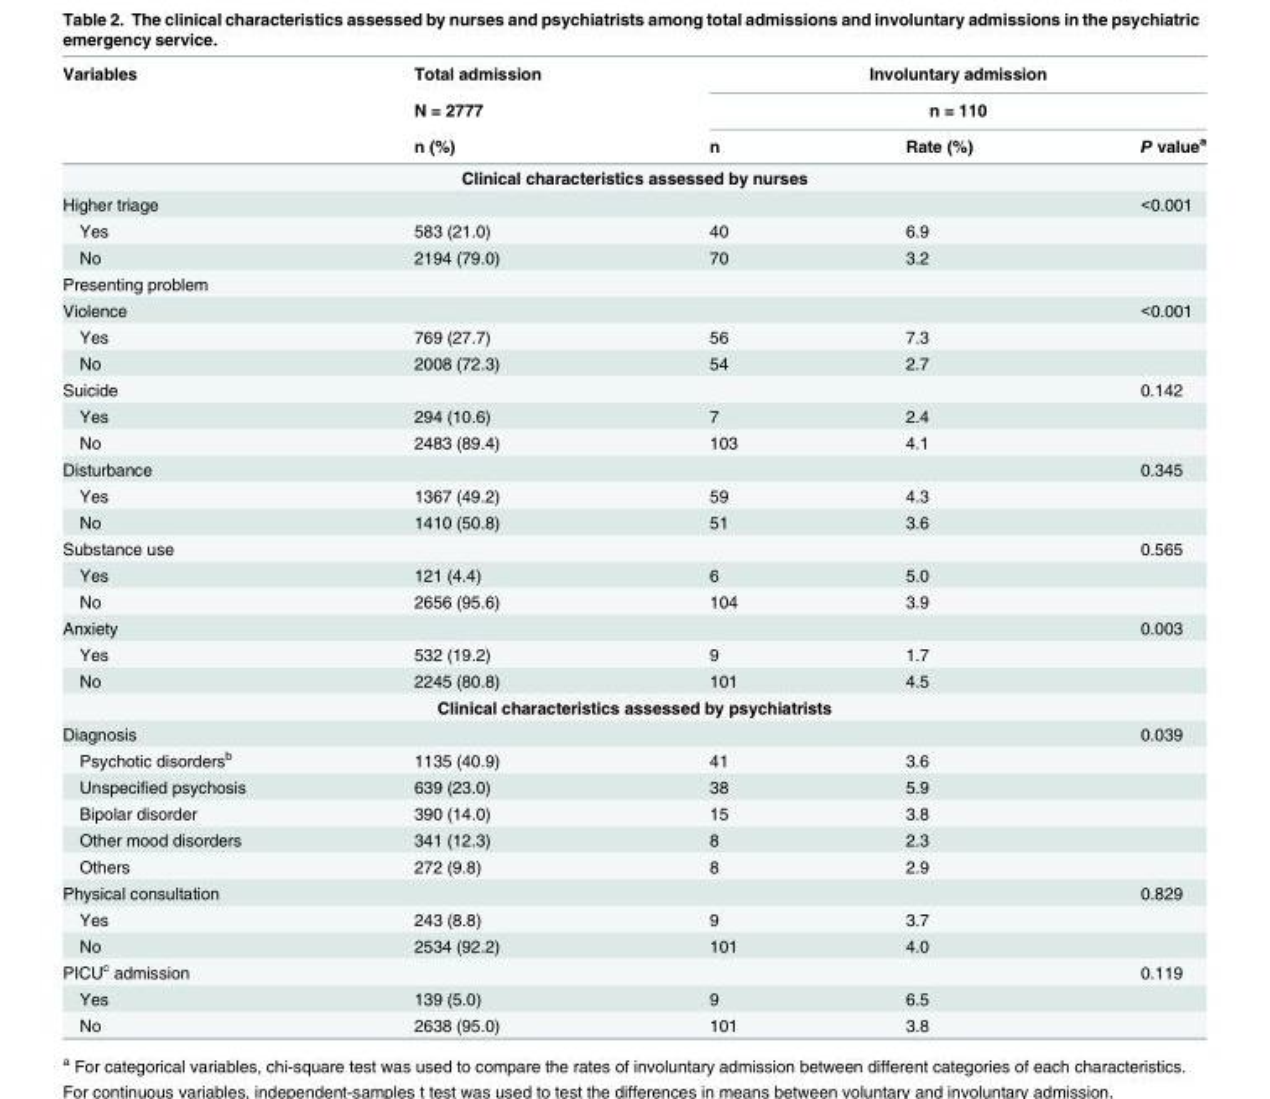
<table><thead><tr><td rowspan="3">Variables</td><td rowspan="3">Total admission N = 2777 n (%)</td><td rowspan="2" colspan="3">Involuntary admission n = 110</td></tr><tr></tr><tr><td>n</td><td>Rate (%)</td><td>P value<sup>a</sup></td></tr></thead><tbody><tr><td colspan="5">Clinical characteristics assessed by nurses</td></tr><tr><td>Higher triage</td><td></td><td></td><td></td><td>&lt;0.001</td></tr><tr><td>Yes</td><td>583 (21.0)</td><td>40</td><td>6.9</td><td></td></tr><tr><td>No</td><td>2194 (79.0)</td><td>70</td><td>3.2</td><td></td></tr><tr><td colspan="5">Presenting problem</td></tr><tr><td>Violence</td><td></td><td></td><td></td><td>&lt;0.001</td></tr><tr><td>Yes</td><td>769 (27.7)</td><td>56</td><td>7.3</td><td></td></tr><tr><td>No</td><td>2008 (72.3)</td><td>54</td><td>2.7</td><td></td></tr><tr><td>Suicide</td><td></td><td></td><td></td><td>0.142</td></tr><tr><td>Yes</td><td>294 (10.6)</td><td>7</td><td>2.4</td><td></td></tr><tr><td>No</td><td>2483 (89.4)</td><td>103</td><td>4.1</td><td></td></tr><tr><td>Disturbance</td><td></td><td></td><td></td><td>0.345</td></tr><tr><td>Yes</td><td>1367 (49.2)</td><td>59</td><td>4.3</td><td></td></tr><tr><td>No</td><td>1410 (50.8)</td><td>51</td><td>3.6</td><td></td></tr><tr><td>Substance use</td><td></td><td></td><td></td><td>0.565</td></tr><tr><td>Yes</td><td>121 (4.4)</td><td>6</td><td>5.0</td><td></td></tr><tr><td>No</td><td>2656 (95.6)</td><td>104</td><td>3.9</td><td></td></tr><tr><td>Anxiety</td><td></td><td></td><td></td><td>0.003</td></tr><tr><td>Yes</td><td>532 (19.2)</td><td>9</td><td>1.7</td><td></td></tr><tr><td>No</td><td>2245 (80.8)</td><td>101</td><td>4.5</td><td></td></tr><tr><td colspan="5">Clinical characteristics assessed by psychiatrists</td></tr><tr><td>Diagnosis</td><td></td><td></td><td></td><td>0.039</td></tr><tr><td>Psychotic disorders<sup>b</sup></td><td>1135 (40.9)</td><td>41</td><td>3.6</td><td></td></tr><tr><td>Unspecified psychosis</td><td>639 (23.0)</td><td>38</td><td>5.9</td><td></td></tr><tr><td>Bipolar disorder</td><td>390 (14.0)</td><td>15</td><td>3.8</td><td></td></tr><tr><td>Other mood disorders</td><td>341 (12.3)</td><td>8</td><td>2.3</td><td></td></tr><tr><td>Others</td><td>272 (9.8)</td><td>8</td><td>2.9</td><td></td></tr><tr><td>Physical consultation</td><td></td><td></td><td></td><td>0.829</td></tr><tr><td>Yes</td><td>243 (8.8)</td><td>9</td><td>3.7</td><td></td></tr><tr><td>No</td><td>2534 (92.2)</td><td>101</td><td>4.0</td><td></td></tr><tr><td>PICU<sup>c</sup> admission</td><td></td><td></td><td></td><td>0.119</td></tr><tr><td>Yes</td><td>139 (5.0)</td><td>9</td><td>6.5</td><td></td></tr><tr><td>No</td><td>2638 (95.0)</td><td>101</td><td>3.8</td><td></td></tr></tbody></table>